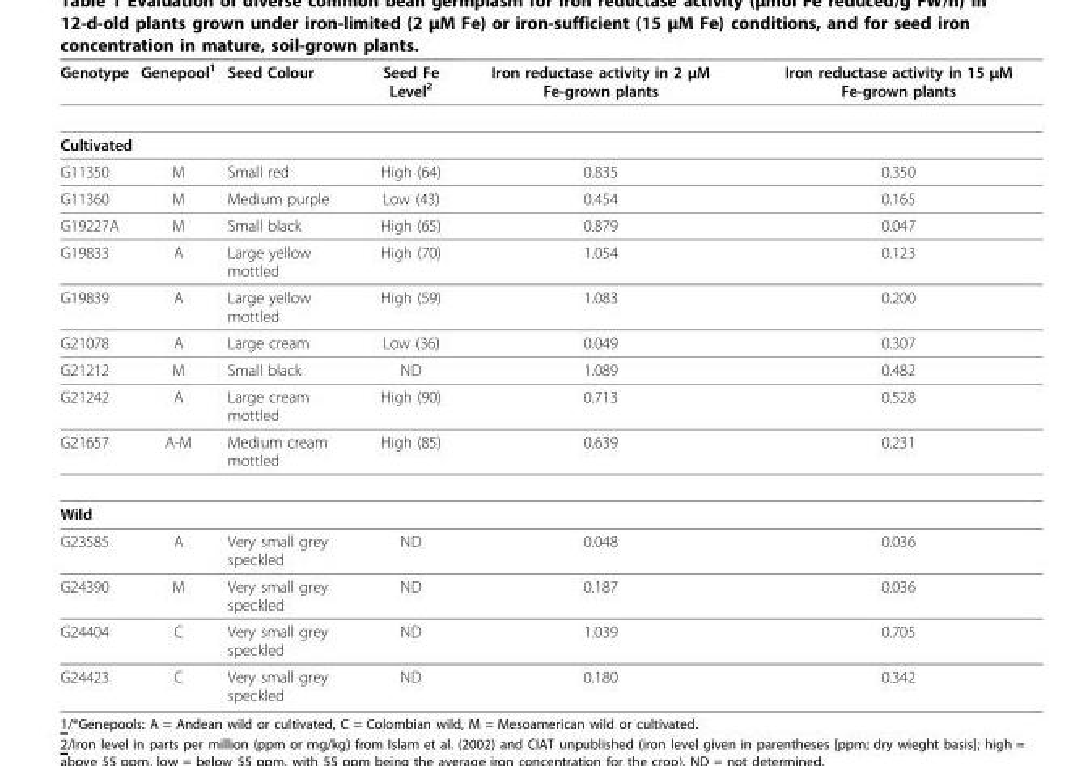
<table><thead><tr><td>Genotype</td><td>Genepool<sup>1</sup></td><td>Seed Colour</td><td>Seed Fe Level<sup>2</sup></td><td>Iron reductase activity in 2 µM Fe-grown plants</td><td>Iron reductase activity in 15 µM Fe-grown plants</td></tr></thead><tbody><tr><td colspan="6">Cultivated</td></tr><tr><td>G11350</td><td>M</td><td>Small red</td><td>High (64)</td><td>0.835</td><td>0.350</td></tr><tr><td>G11360</td><td>M</td><td>Medium purple</td><td>Low (43)</td><td>0.454</td><td>0.165</td></tr><tr><td>G19227A</td><td>M</td><td>Small black</td><td>High (65)</td><td>0.879</td><td>0.047</td></tr><tr><td>G19833</td><td>A</td><td>Large yellow mottled</td><td>High (70)</td><td>1.054</td><td>0.123</td></tr><tr><td>G19839</td><td>A</td><td>Large yellow mottled</td><td>High (59)</td><td>1.083</td><td>0.200</td></tr><tr><td>G21078</td><td>A</td><td>Large cream</td><td>Low (36)</td><td>0.049</td><td>0.307</td></tr><tr><td>G21212</td><td>M</td><td>Small black</td><td>ND</td><td>1.089</td><td>0.482</td></tr><tr><td>G21242</td><td>A</td><td>Large cream mottled</td><td>High (90)</td><td>0.713</td><td>0.528</td></tr><tr><td>G21657</td><td>A-M</td><td>Medium cream mottled</td><td>High (85)</td><td>0.639</td><td>0.231</td></tr><tr><td colspan="6">Wild</td></tr><tr><td>G23585</td><td>A</td><td>Very small grey speckled</td><td>ND</td><td>0.048</td><td>0.036</td></tr><tr><td>G24390</td><td>M</td><td>Very small grey speckled</td><td>ND</td><td>0.187</td><td>0.036</td></tr><tr><td>G24404</td><td>C</td><td>Very small grey speckled</td><td>ND</td><td>1.039</td><td>0.705</td></tr><tr><td>G24423</td><td>C</td><td>Very small grey speckled</td><td>ND</td><td>0.180</td><td>0.342</td></tr></tbody></table>